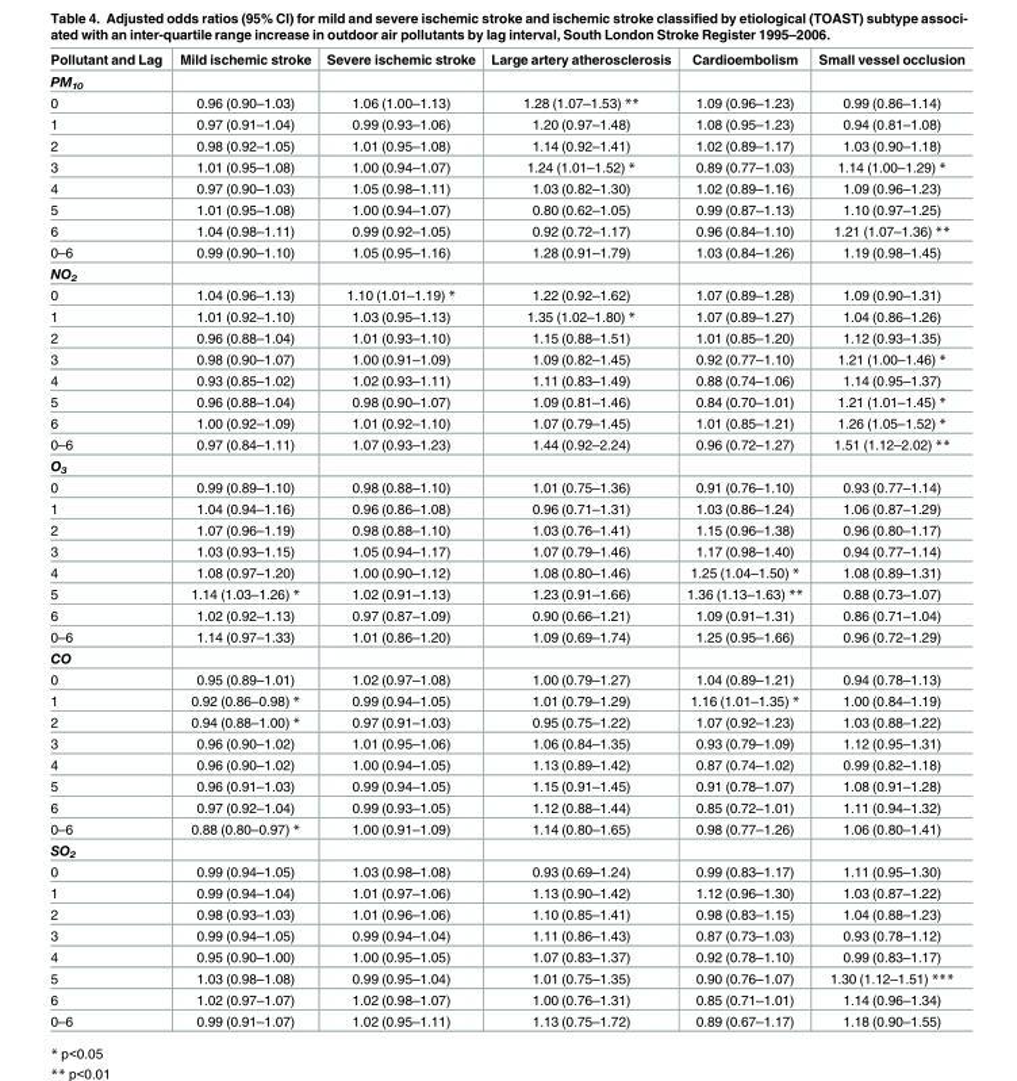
<table><thead><tr><td>Pollutant and Lag</td><td>Mild ischemic stroke</td><td>Severe ischemic stroke</td><td>Large artery atherosclerosis</td><td>Cardioembolism</td><td>Small vessel occlusion</td></tr></thead><tbody><tr><td colspan="6">PM<sub>10</sub></td></tr><tr><td>0</td><td>0.96 (0.90–1.03)</td><td>1.06 (1.00–1.13)</td><td>1.28 (1.07–1.53) **</td><td>1.09 (0.96–1.23)</td><td>0.99 (0.86–1.14)</td></tr><tr><td>1</td><td>0.97 (0.91–1.04)</td><td>0.99 (0.93–1.06)</td><td>1.20 (0.97–1.48)</td><td>1.08 (0.95–1.23)</td><td>0.94 (0.81–1.08)</td></tr><tr><td>2</td><td>0.98 (0.92–1.05)</td><td>1.01 (0.95–1.08)</td><td>1.14 (0.92–1.41)</td><td>1.02 (0.89–1.17)</td><td>1.03 (0.90–1.18)</td></tr><tr><td>3</td><td>1.01 (0.95–1.08)</td><td>1.00 (0.94–1.07)</td><td>1.24 (1.01–1.52) *</td><td>0.89 (0.77–1.03)</td><td>1.14 (1.00–1.29) *</td></tr><tr><td>4</td><td>0.97 (0.90–1.03)</td><td>1.05 (0.98–1.11)</td><td>1.03 (0.82–1.30)</td><td>1.02 (0.89–1.16)</td><td>1.09 (0.96–1.23)</td></tr><tr><td>5</td><td>1.01 (0.95–1.08)</td><td>1.00 (0.94–1.07)</td><td>0.80 (0.62–1.05)</td><td>0.99 (0.87–1.13)</td><td>1.10 (0.97–1.25)</td></tr><tr><td>6</td><td>1.04 (0.98–1.11)</td><td>0.99 (0.92–1.05)</td><td>0.92 (0.72–1.17)</td><td>0.96 (0.84–1.10)</td><td>1.21 (1.07–1.36) **</td></tr><tr><td>0–6</td><td>0.99 (0.90–1.10)</td><td>1.05 (0.95–1.16)</td><td>1.28 (0.91–1.79)</td><td>1.03 (0.84–1.26)</td><td>1.19 (0.98–1.45)</td></tr><tr><td colspan="6">NO<sub>2</sub></td></tr><tr><td>0</td><td>1.04 (0.96–1.13)</td><td>1.10 (1.01–1.19) *</td><td>1.22 (0.92–1.62)</td><td>1.07 (0.89–1.28)</td><td>1.09 (0.90–1.31)</td></tr><tr><td>1</td><td>1.01 (0.92–1.10)</td><td>1.03 (0.95–1.13)</td><td>1.35 (1.02–1.80) *</td><td>1.07 (0.89–1.27)</td><td>1.04 (0.86–1.26)</td></tr><tr><td>2</td><td>0.96 (0.88–1.04)</td><td>1.01 (0.93–1.10)</td><td>1.15 (0.88–1.51)</td><td>1.01 (0.85–1.20)</td><td>1.12 (0.93–1.35)</td></tr><tr><td>3</td><td>0.98 (0.90–1.07)</td><td>1.00 (0.91–1.09)</td><td>1.09 (0.82–1.45)</td><td>0.92 (0.77–1.10)</td><td>1.21 (1.00–1.46) *</td></tr><tr><td>4</td><td>0.93 (0.85–1.02)</td><td>1.02 (0.93–1.11)</td><td>1.11 (0.83–1.49)</td><td>0.88 (0.74–1.06)</td><td>1.14 (0.95–1.37)</td></tr><tr><td>5</td><td>0.96 (0.88–1.04)</td><td>0.98 (0.90–1.07)</td><td>1.09 (0.81–1.46)</td><td>0.84 (0.70–1.01)</td><td>1.21 (1.01–1.45) *</td></tr><tr><td>6</td><td>1.00 (0.92–1.09)</td><td>1.01 (0.92–1.10)</td><td>1.07 (0.79–1.45)</td><td>1.01 (0.85–1.21)</td><td>1.26 (1.05–1.52) *</td></tr><tr><td>0–6</td><td>0.97 (0.84–1.11)</td><td>1.07 (0.93–1.23)</td><td>1.44 (0.92–2.24)</td><td>0.96 (0.72–1.27)</td><td>1.51 (1.12–2.02) **</td></tr><tr><td colspan="6">O<sub>3</sub></td></tr><tr><td>0</td><td>0.99 (0.89–1.10)</td><td>0.98 (0.88–1.10)</td><td>1.01 (0.75–1.36)</td><td>0.91 (0.76–1.10)</td><td>0.93 (0.77–1.14)</td></tr><tr><td>1</td><td>1.04 (0.94–1.16)</td><td>0.96 (0.86–1.08)</td><td>0.96 (0.71–1.31)</td><td>1.03 (0.86–1.24)</td><td>1.06 (0.87–1.29)</td></tr><tr><td>2</td><td>1.07 (0.96–1.19)</td><td>0.98 (0.88–1.10)</td><td>1.03 (0.76–1.41)</td><td>1.15 (0.96–1.38)</td><td>0.96 (0.80–1.17)</td></tr><tr><td>3</td><td>1.03 (0.93–1.15)</td><td>1.05 (0.94–1.17)</td><td>1.07 (0.79–1.46)</td><td>1.17 (0.98–1.40)</td><td>0.94 (0.77–1.14)</td></tr><tr><td>4</td><td>1.08 (0.97–1.20)</td><td>1.00 (0.90–1.12)</td><td>1.08 (0.80–1.46)</td><td>1.25 (1.04–1.50) *</td><td>1.08 (0.89–1.31)</td></tr><tr><td>5</td><td>1.14 (1.03–1.26) *</td><td>1.02 (0.91–1.13)</td><td>1.23 (0.91–1.66)</td><td>1.36 (1.13–1.63) **</td><td>0.88 (0.73–1.07)</td></tr><tr><td>6</td><td>1.02 (0.92–1.13)</td><td>0.97 (0.87–1.09)</td><td>0.90 (0.66–1.21)</td><td>1.09 (0.91–1.31)</td><td>0.86 (0.71–1.04)</td></tr><tr><td>0–6</td><td>1.14 (0.97–1.33)</td><td>1.01 (0.86–1.20)</td><td>1.09 (0.69–1.74)</td><td>1.25 (0.95–1.66)</td><td>0.96 (0.72–1.29)</td></tr><tr><td colspan="6">CO</td></tr><tr><td>0</td><td>0.95 (0.89–1.01)</td><td>1.02 (0.97–1.08)</td><td>1.00 (0.79–1.27)</td><td>1.04 (0.89–1.21)</td><td>0.94 (0.78–1.13)</td></tr><tr><td>1</td><td>0.92 (0.86–0.98) *</td><td>0.99 (0.94–1.05)</td><td>1.01 (0.79–1.29)</td><td>1.16 (1.01–1.35) *</td><td>1.00 (0.84–1.19)</td></tr><tr><td>2</td><td>0.94 (0.88–1.00) *</td><td>0.97 (0.91–1.03)</td><td>0.95 (0.75–1.22)</td><td>1.07 (0.92–1.23)</td><td>1.03 (0.88–1.22)</td></tr><tr><td>3</td><td>0.96 (0.90–1.02)</td><td>1.01 (0.95–1.06)</td><td>1.06 (0.84–1.35)</td><td>0.93 (0.79–1.09)</td><td>1.12 (0.95–1.31)</td></tr><tr><td>4</td><td>0.96 (0.90–1.02)</td><td>1.00 (0.94–1.05)</td><td>1.13 (0.89–1.42)</td><td>0.87 (0.74–1.02)</td><td>0.99 (0.82–1.18)</td></tr><tr><td>5</td><td>0.96 (0.91–1.03)</td><td>0.99 (0.94–1.05)</td><td>1.15 (0.91–1.45)</td><td>0.91 (0.78–1.07)</td><td>1.08 (0.91–1.28)</td></tr><tr><td>6</td><td>0.97 (0.92–1.04)</td><td>0.99 (0.93–1.05)</td><td>1.12 (0.88–1.44)</td><td>0.85 (0.72–1.01)</td><td>1.11 (0.94–1.32)</td></tr><tr><td>0–6</td><td>0.88 (0.80–0.97) *</td><td>1.00 (0.91–1.09)</td><td>1.14 (0.80–1.65)</td><td>0.98 (0.77–1.26)</td><td>1.06 (0.80–1.41)</td></tr><tr><td colspan="6">SO<sub>2</sub></td></tr><tr><td>0</td><td>0.99 (0.94–1.05)</td><td>1.03 (0.98–1.08)</td><td>0.93 (0.69–1.24)</td><td>0.99 (0.83–1.17)</td><td>1.11 (0.95–1.30)</td></tr><tr><td>1</td><td>0.99 (0.94–1.04)</td><td>1.01 (0.97–1.06)</td><td>1.13 (0.90–1.42)</td><td>1.12 (0.96–1.30)</td><td>1.03 (0.87–1.22)</td></tr><tr><td>2</td><td>0.98 (0.93–1.03)</td><td>1.01 (0.96–1.06)</td><td>1.10 (0.85–1.41)</td><td>0.98 (0.83–1.15)</td><td>1.04 (0.88–1.23)</td></tr><tr><td>3</td><td>0.99 (0.94–1.05)</td><td>0.99 (0.94–1.04)</td><td>1.11 (0.86–1.43)</td><td>0.87 (0.73–1.03)</td><td>0.93 (0.78–1.12)</td></tr><tr><td>4</td><td>0.95 (0.90–1.00)</td><td>1.00 (0.95–1.05)</td><td>1.07 (0.83–1.37)</td><td>0.92 (0.78–1.10)</td><td>0.99 (0.83–1.17)</td></tr><tr><td>5</td><td>1.03 (0.98–1.08)</td><td>0.99 (0.95–1.04)</td><td>1.01 (0.75–1.35)</td><td>0.90 (0.76–1.07)</td><td>1.30 (1.12–1.51) ***</td></tr><tr><td>6</td><td>1.02 (0.97–1.07)</td><td>1.02 (0.98–1.07)</td><td>1.00 (0.76–1.31)</td><td>0.85 (0.71–1.01)</td><td>1.14 (0.96–1.34)</td></tr><tr><td>0–6</td><td>0.99 (0.91–1.07)</td><td>1.02 (0.95–1.11)</td><td>1.13 (0.75–1.72)</td><td>0.89 (0.67–1.17)</td><td>1.18 (0.90–1.55)</td></tr></tbody></table>